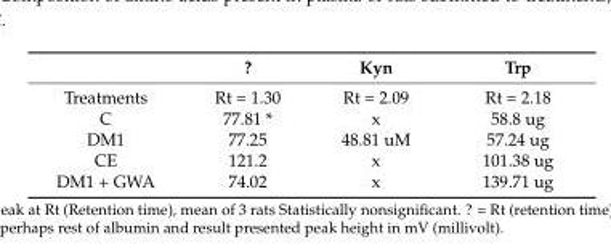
<table><thead><tr><td></td><td>?</td><td>Kyn</td><td>Trp</td></tr></thead><tbody><tr><td>Treatments</td><td>Rt = 1.30</td><td>Rt = 2.09</td><td>Rt = 2.18</td></tr><tr><td>C</td><td>77.81 *</td><td>x</td><td>58.8 ug</td></tr><tr><td>DM1</td><td>77.25</td><td>48.81 uM</td><td>57.24 ug</td></tr><tr><td>CE</td><td>121.2</td><td>x</td><td>101.38 ug</td></tr><tr><td>DM1 + GWA</td><td>74.02</td><td>x</td><td>139.71 ug</td></tr></tbody></table>